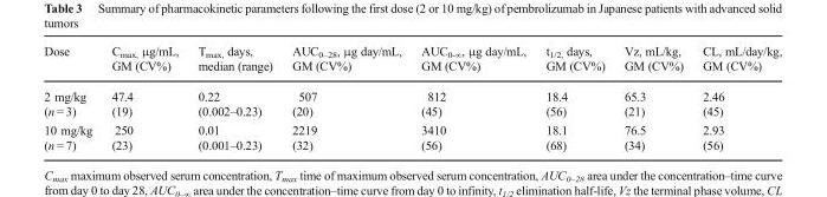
<table><thead><tr><td>Dose</td><td>C<sub>max,</sub> μg/mL, GM (CV%)</td><td>T<sub>max,</sub> days, median (range)</td><td>AUC<sub>0–28</sub>, μg day/mL, GM (CV%)</td><td>AUC<sub>0-∞</sub>, μg day/mL, GM (CV%)</td><td>t<sub>1/2,</sub> days, GM (CV%)</td><td>Vz, mL/kg, GM (CV%)</td><td>CL, mL/day/kg, GM (CV%)</td></tr></thead><tbody><tr><td>2 mg/kg (n = 3)</td><td>47.4 (19)</td><td>0.22 (0.002–0.23)</td><td>507 (20)</td><td>812 (45)</td><td>18.4 (56)</td><td>65.3 (21)</td><td>2.46 (45)</td></tr><tr><td>10 mg/kg (n = 7)</td><td>250 (23)</td><td>0.01 (0.001–0.23)</td><td>2219 (32)</td><td>3410 (56)</td><td>18.1 (68)</td><td>76.5 (34)</td><td>2.93 (56)</td></tr></tbody></table>